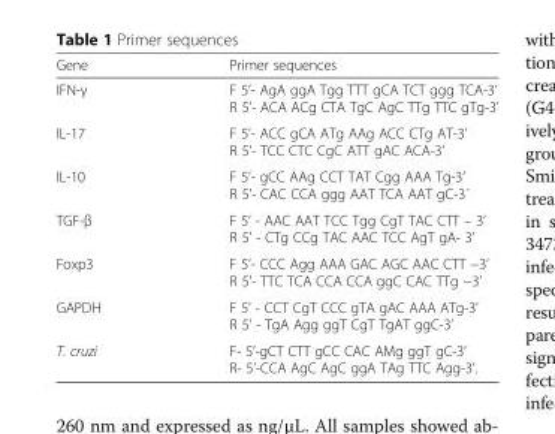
<table><thead><tr><td>Gene</td><td>Primer sequences</td></tr></thead><tbody><tr><td>IFN-γ</td><td>F 5’- AgA ggA Tgg TTT gCA TCT ggg TCA-3’ R 5’- ACA ACg CTA TgC AgC TTg TTC gTg-3’</td></tr><tr><td>IL-17</td><td>F 5’- ACC gCA ATg AAg ACC CTg AT-3’ R 5’- TCC CTC CgC ATT gAC ACA-3’</td></tr><tr><td>IL-10</td><td>F 5’- gCC AAg CCT TAT Cgg AAA Tg-3’ R 5’- CAC CCA ggg AAT TCA AAT gC-3´</td></tr><tr><td>TGF-β</td><td>F 5’ - AAC AAT TCC Tgg CgT TAC CTT – 3’ R 5’ - CTg CCg TAC AAC TCC AgT gA- 3’</td></tr><tr><td>Foxp3</td><td>F 5’- CCC Agg AAA GAC AGC AAC CTT −3’ R 5’- TTC TCA CCA CCA ggC CAC TTg −3’</td></tr><tr><td>GAPDH</td><td>F 5’ - CCT CgT CCC gTA gAC AAA ATg-3’ R 5’ - TgA Agg ggT CgT TgAT ggC-3’</td></tr><tr><td>T. cruzi</td><td>F- 5’-gCT CTT gCC CAC AMg ggT gC-3’ R- 5’-CCA AgC AgC ggA TAg TTC Agg-3’.</td></tr></tbody></table>